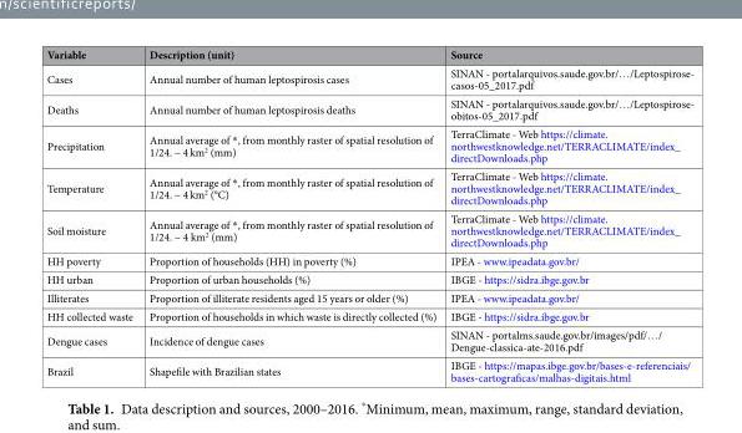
<table><thead><tr><td>Variable</td><td>Description (unit)</td><td>Source</td></tr></thead><tbody><tr><td>Cases</td><td>Annual number of human leptospirosis cases</td><td>SINAN - portalarquivos.saude.gov.br/…/Leptospirose- casos-05_2017.pdf</td></tr><tr><td>Deaths</td><td>Annual number of human leptospirosis deaths</td><td>SINAN - portalarquivos.saude.gov.br/…/Leptospirose- obitos-05_2017.pdf</td></tr><tr><td>Precipitation</td><td>Annual average of *, from monthly raster of spatial resolution of 1/24. ~ 4 km<sup>2</sup> (mm)</td><td>TerraClimate - Web https://climate. northwestknowledge.net/TERRACLIMATE/index_ directDownloads.php</td></tr><tr><td>Temperature</td><td>Annual average of *, from monthly raster of spatial resolution of 1/24. ~ 4 km<sup>2</sup> (°C)</td><td>TerraClimate - Web https://climate. northwestknowledge.net/TERRACLIMATE/index_ directDownloads.php</td></tr><tr><td>Soil moisture</td><td>Annual average of *, from monthly raster of spatial resolution of 1/24. ~ 4 km<sup>2</sup> (mm)</td><td>TerraClimate - Web https://climate. northwestknowledge.net/TERRACLIMATE/index_ directDownloads.php</td></tr><tr><td>HH poverty</td><td>Proportion of households (HH) in poverty (%)</td><td>IPEA - www.ipeadata.gov.br/</td></tr><tr><td>HH urban</td><td>Proportion of urban households (%)</td><td>IBGE - https://sidra.ibge.gov.br</td></tr><tr><td>Illiterates</td><td>Proportion of illiterate residents aged 15 years or older (%)</td><td>IPEA - www.ipeadata.gov.br/</td></tr><tr><td>HH collected waste</td><td>Proportion of households in which waste is directly collected (%)</td><td>IBGE - https://sidra.ibge.gov.br</td></tr><tr><td>Dengue cases</td><td>Incidence of dengue cases</td><td>SINAN - portalms.saude.gov.br/images/pdf/…/ Dengue-classica-ate-2016.pdf</td></tr><tr><td>Brazil</td><td>Shapefile with Brazilian states</td><td>IBGE - https://mapas.ibge.gov.br/bases-e-referenciais/ bases-cartograficas/malhas-digitais.html</td></tr></tbody></table>